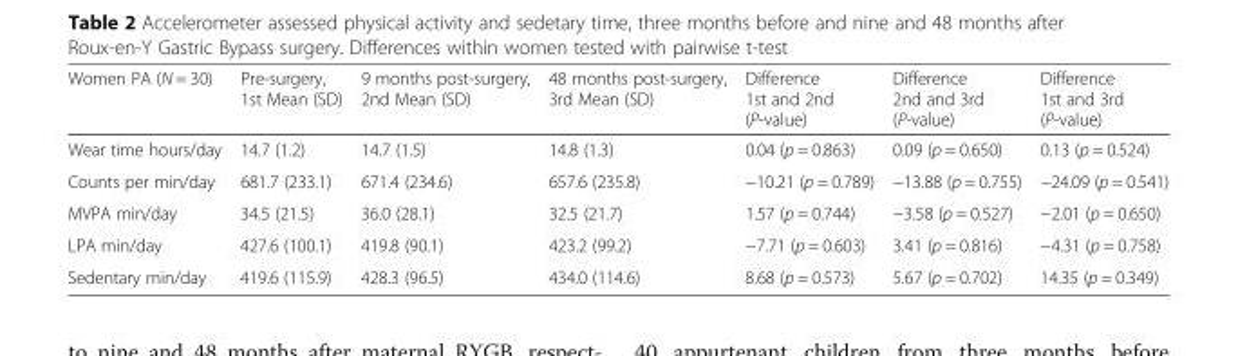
<table><thead><tr><td>Women PA (N = 30)</td><td>Pre-surgery, 1st Mean (SD)</td><td>9 months post-surgery, 2nd Mean (SD)</td><td>48 months post-surgery, 3rd Mean (SD)</td><td>Difference 1st and 2nd (P-value)</td><td>Difference 2nd and 3rd (P-value)</td><td>Difference 1st and 3rd (P-value)</td></tr></thead><tbody><tr><td>Wear time hours/day</td><td>14.7 (1.2)</td><td>14.7 (1.5)</td><td>14.8 (1.3)</td><td>0.04 (p = 0.863)</td><td>0.09 (p = 0.650)</td><td>0.13 (p = 0.524)</td></tr><tr><td>Counts per min/day</td><td>681.7 (233.1)</td><td>671.4 (234.6)</td><td>657.6 (235.8)</td><td>−10.21 (p = 0.789)</td><td>−13.88 (p = 0.755)</td><td>−24.09 (p = 0.541)</td></tr><tr><td>MVPA min/day</td><td>34.5 (21.5)</td><td>36.0 (28.1)</td><td>32.5 (21.7)</td><td>1.57 (p = 0.744)</td><td>−3.58 (p = 0.527)</td><td>−2.01 (p = 0.650)</td></tr><tr><td>LPA min/day</td><td>427.6 (100.1)</td><td>419.8 (90.1)</td><td>423.2 (99.2)</td><td>−7.71 (p = 0.603)</td><td>3.41 (p = 0.816)</td><td>−4.31 (p = 0.758)</td></tr><tr><td>Sedentary min/day</td><td>419.6 (115.9)</td><td>428.3 (96.5)</td><td>434.0 (114.6)</td><td>8.68 (p = 0.573)</td><td>5.67 (p = 0.702)</td><td>14.35 (p = 0.349)</td></tr></tbody></table>